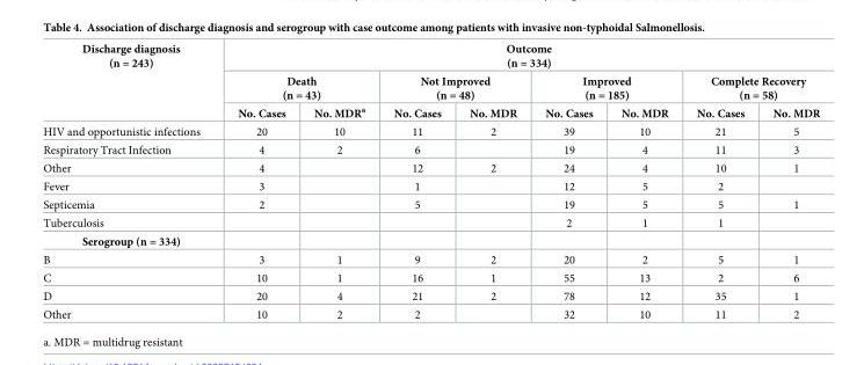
<table><thead><tr><td rowspan="3">Discharge diagnosis (n = 243)</td><td colspan="8">Outcome (n = 334)</td></tr><tr><td colspan="2">Death (n = 43)</td><td colspan="2">Not Improved (n = 48)</td><td colspan="2">Improved (n = 185)</td><td colspan="2">Complete Recovery (n = 58)</td></tr><tr><td>No. Cases</td><td>No. MDR<sup>a</sup></td><td>No. Cases</td><td>No. MDR</td><td>No. Cases</td><td>No. MDR</td><td>No. Cases</td><td>No. MDR</td></tr></thead><tbody><tr><td>HIV and opportunistic infections</td><td>20</td><td>10</td><td>11</td><td>2</td><td>39</td><td>10</td><td>21</td><td>5</td></tr><tr><td>Respiratory Tract Infection</td><td>4</td><td>2</td><td>6</td><td></td><td>19</td><td>4</td><td>11</td><td>3</td></tr><tr><td>Other</td><td>4</td><td></td><td>12</td><td>2</td><td>24</td><td>4</td><td>10</td><td>1</td></tr><tr><td>Fever</td><td>3</td><td></td><td>1</td><td></td><td>12</td><td>5</td><td>2</td><td></td></tr><tr><td>Septicemia</td><td>2</td><td></td><td>5</td><td></td><td>19</td><td>5</td><td>5</td><td>1</td></tr><tr><td>Tuberculosis</td><td></td><td></td><td></td><td></td><td>2</td><td>1</td><td>1</td><td></td></tr><tr><td colspan="9">Serogroup (n = 334)</td></tr><tr><td>B</td><td>3</td><td>1</td><td>9</td><td>2</td><td>20</td><td>2</td><td>5</td><td>1</td></tr><tr><td>C</td><td>10</td><td>1</td><td>16</td><td>1</td><td>55</td><td>13</td><td>2</td><td>6</td></tr><tr><td>D</td><td>20</td><td>4</td><td>21</td><td>2</td><td>78</td><td>12</td><td>35</td><td>1</td></tr><tr><td>Other</td><td>10</td><td>2</td><td>2</td><td></td><td>32</td><td>10</td><td>11</td><td>2</td></tr></tbody></table>